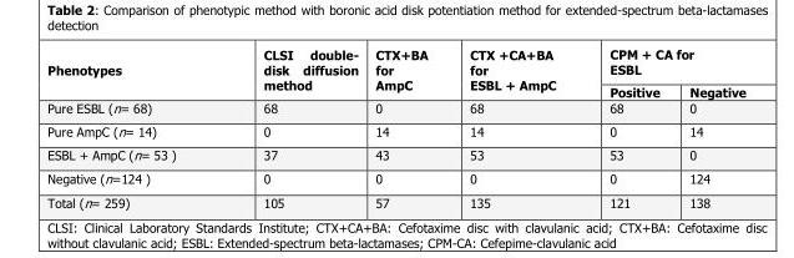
<table><thead><tr><td rowspan="2">Phenotypes</td><td rowspan="2">CLSI double- disk diffusion method</td><td rowspan="2">CTX+BA for AmpC</td><td rowspan="2">CTX +CA+BA for ESBL + AmpC</td><td colspan="2">CPM + CA for ESBL</td></tr><tr><td>Positive</td><td>Negative</td></tr></thead><tbody><tr><td>Pure ESBL (n= 68)</td><td>68</td><td>0</td><td>68</td><td>68</td><td>0</td></tr><tr><td>Pure AmpC (n= 14)</td><td>0</td><td>14</td><td>14</td><td>0</td><td>14</td></tr><tr><td>ESBL + AmpC (n= 53 )</td><td>37</td><td>43</td><td>53</td><td>53</td><td>0</td></tr><tr><td>Negative (n=124 )</td><td>0</td><td>0</td><td>0</td><td>0</td><td>124</td></tr><tr><td>Total (n= 259)</td><td>105</td><td>57</td><td>135</td><td>121</td><td>138</td></tr></tbody></table>